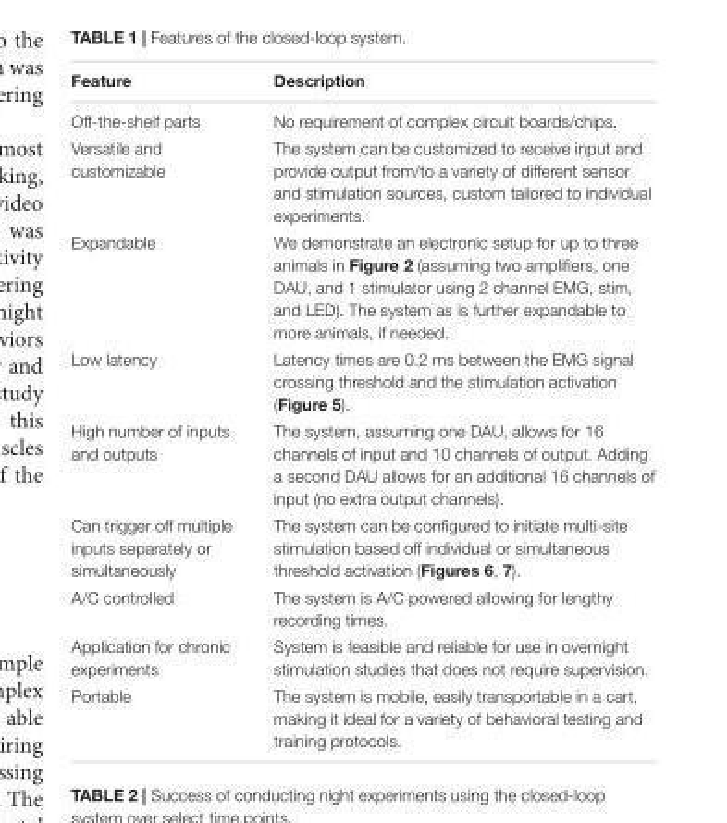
<table><thead><tr><td>Feature</td><td>Description</td></tr></thead><tbody><tr><td>Off-the-shelf parts</td><td>No requirement of complex circuit boards/chips.</td></tr><tr><td>Versatile and customizable</td><td>The system can be customized to receive input and provide output from/to a variety of different sensor and stimulation sources, custom tailored to individual experiments.</td></tr><tr><td>Expandable</td><td>We demonstrate an electronic setup for up to three animals in Figure 2 (assuming two amplifiers, one DAU, and 1 stimulator using 2 channel EMG, stim, and LED). The system as is further expandable to more animals, if needed.</td></tr><tr><td>Low latency</td><td>Latency times are 0.2 ms between the EMG signal crossing threshold and the stimulation activation (Figure 5).</td></tr><tr><td>High number of inputs and outputs</td><td>The system, assuming one DAU, allows for 16 channels of input and 10 channels of output. Adding a second DAU allows for an additional 16 channels of input (no extra output channels).</td></tr><tr><td>Can trigger off multiple inputs separately or simultaneously</td><td>The system can be configured to initiate multi-site stimulation based off individual or simultaneous threshold activation (Figures 6, 7).</td></tr><tr><td>A/C controlled</td><td>The system is A/C powered allowing for lengthy recording times.</td></tr><tr><td>Application for chronic experiments</td><td>System is feasible and reliable for use in overnight stimulation studies that does not require supervision.</td></tr><tr><td>Portable</td><td>The system is mobile, easily transportable in a cart, making it ideal for a variety of behavioral testing and training protocols.</td></tr></tbody></table>